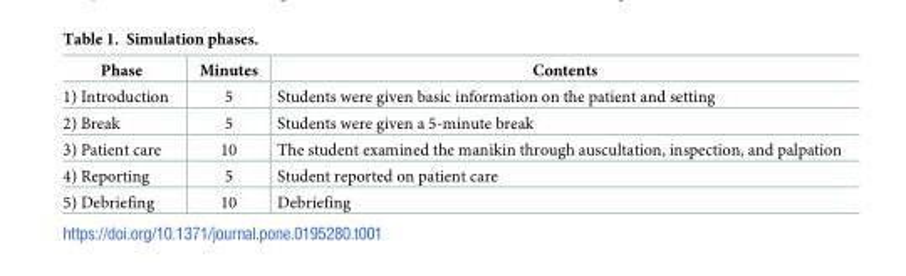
<table><thead><tr><td>Phase</td><td>Minutes</td><td>Contents</td></tr></thead><tbody><tr><td>1) Introduction</td><td>5</td><td>Students were given basic information on the patient and setting</td></tr><tr><td>2) Break</td><td>5</td><td>Students were given a 5-minute break</td></tr><tr><td>3) Patient care</td><td>10</td><td>The student examined the manikin through auscultation, inspection, and palpation</td></tr><tr><td>4) Reporting</td><td>5</td><td>Student reported on patient care</td></tr><tr><td>5) Debriefing</td><td>10</td><td>Debriefing</td></tr></tbody></table>